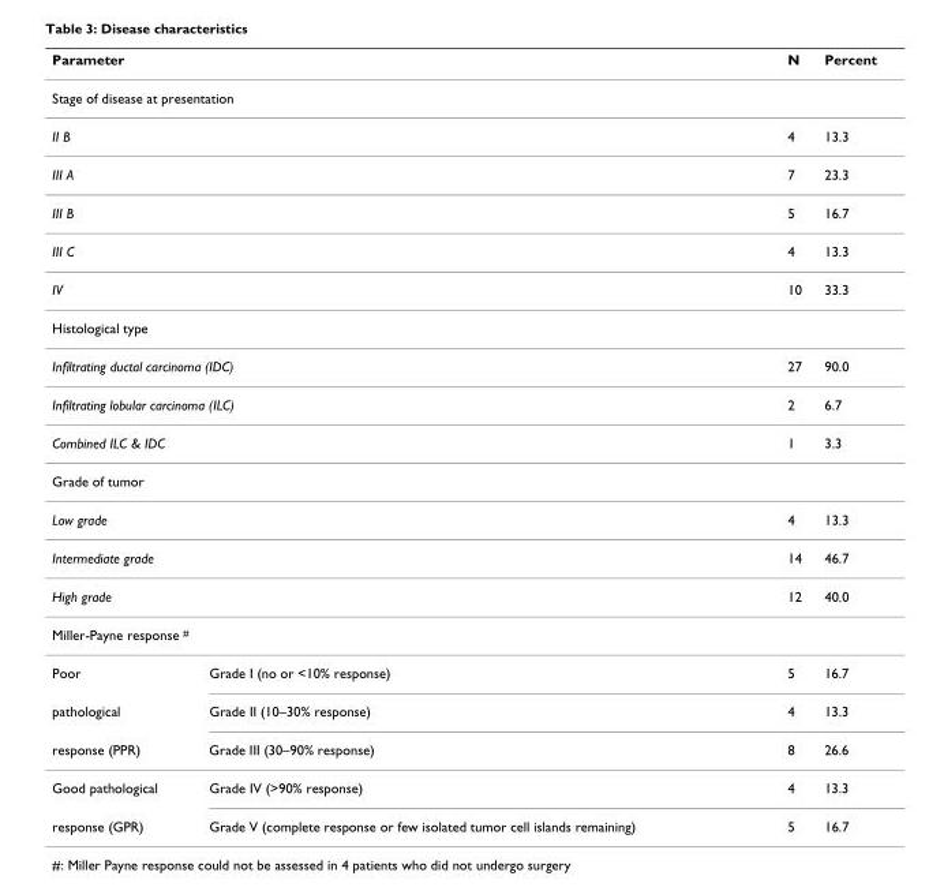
<table><thead><tr><td colspan="2">Parameter</td><td>N</td><td>Percent</td></tr></thead><tbody><tr><td colspan="4">Stage of disease at presentation</td></tr><tr><td colspan="2">II B</td><td>4</td><td>13.3</td></tr><tr><td colspan="2">III A</td><td>7</td><td>23.3</td></tr><tr><td colspan="2">III B</td><td>5</td><td>16.7</td></tr><tr><td colspan="2">III C</td><td>4</td><td>13.3</td></tr><tr><td colspan="2">IV</td><td>10</td><td>33.3</td></tr><tr><td colspan="4">Histological type</td></tr><tr><td colspan="2">Infiltrating ductal carcinoma (IDC)</td><td>27</td><td>90.0</td></tr><tr><td colspan="2">Infiltrating lobular carcinoma (ILC)</td><td>2</td><td>6.7</td></tr><tr><td colspan="2">Combined ILC &amp; IDC</td><td>1</td><td>3.3</td></tr><tr><td colspan="4">Grade of tumor</td></tr><tr><td colspan="2">Low grade</td><td>4</td><td>13.3</td></tr><tr><td colspan="2">Intermediate grade</td><td>14</td><td>46.7</td></tr><tr><td colspan="2">High grade</td><td>12</td><td>40.0</td></tr><tr><td colspan="4">Miller-Payne response <sup>#</sup></td></tr><tr><td>Poor</td><td>Grade I (no or &lt;10% response)</td><td>5</td><td>16.7</td></tr><tr><td>pathological</td><td>Grade II (10–30% response)</td><td>4</td><td>13.3</td></tr><tr><td>response (PPR)</td><td>Grade III (30–90% response)</td><td>8</td><td>26.6</td></tr><tr><td>Good pathological</td><td>Grade IV (&gt;90% response)</td><td>4</td><td>13.3</td></tr><tr><td>response (GPR)</td><td>Grade V (complete response or few isolated tumor cell islands remaining)</td><td>5</td><td>16.7</td></tr></tbody></table>